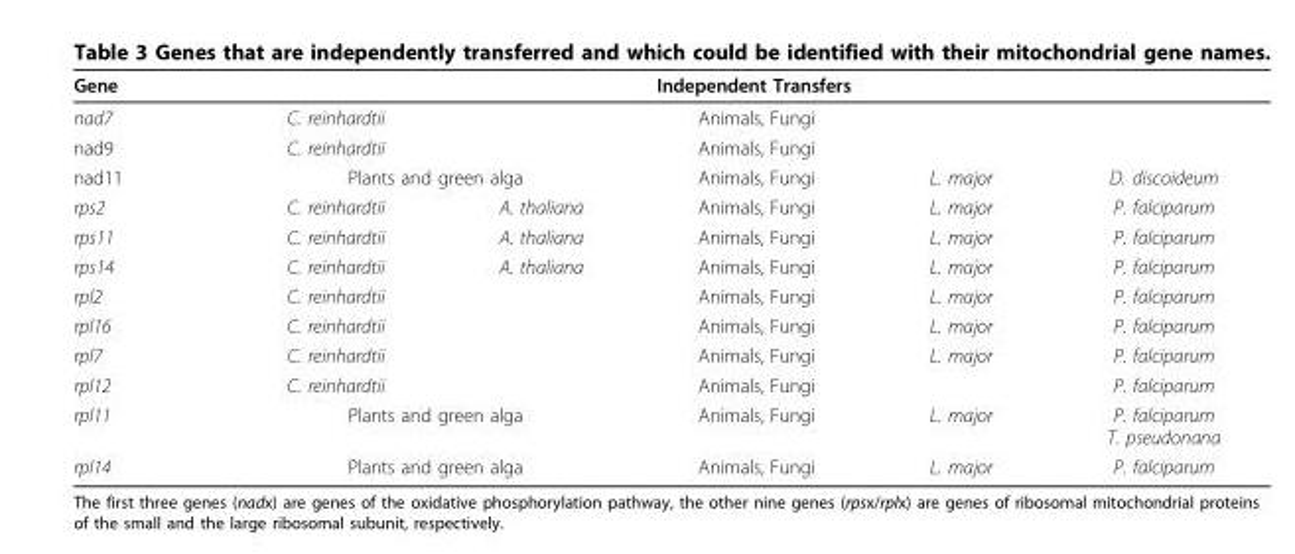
<table><thead><tr><td rowspan="2">Gene nad7</td><td colspan="5">Independent Transfers</td></tr><tr><td>C. reinhardtii</td><td></td><td>Animals, Fungi</td><td></td><td></td></tr></thead><tbody><tr><td>nad9</td><td>C. reinhardtii</td><td></td><td>Animals, Fungi</td><td></td><td></td></tr><tr><td>nad11</td><td colspan="2">Plants and green alga</td><td>Animals, Fungi</td><td>L. major</td><td>D. discoideum</td></tr><tr><td>rps2</td><td>C. reinhardtii</td><td>A. thaliana</td><td>Animals, Fungi</td><td>L. major</td><td>P. falciparum</td></tr><tr><td>rps11</td><td>C. reinhardtii</td><td>A. thaliana</td><td>Animals, Fungi</td><td>L. major</td><td>P. falciparum</td></tr><tr><td>rps14</td><td>C. reinhardtii</td><td>A. thaliana</td><td>Animals, Fungi</td><td>L. major</td><td>P. falciparum</td></tr><tr><td>rpl2</td><td>C. reinhardtii</td><td></td><td>Animals, Fungi</td><td>L. major</td><td>P. falciparum</td></tr><tr><td>rpl16</td><td>C. reinhardtii</td><td></td><td>Animals, Fungi</td><td>L. major</td><td>P. falciparum</td></tr><tr><td>rpl7</td><td>C. reinhardtii</td><td></td><td>Animals, Fungi</td><td>L. major</td><td>P. falciparum</td></tr><tr><td>rpl12</td><td>C. reinhardtii</td><td></td><td>Animals, Fungi</td><td></td><td>P. falciparum</td></tr><tr><td>rpl11</td><td colspan="2">Plants and green alga</td><td>Animals, Fungi</td><td>L. major</td><td>P. falciparum T. pseudonana</td></tr><tr><td>rpl14</td><td colspan="2">Plants and green alga</td><td>Animals, Fungi</td><td>L. major</td><td>P. falciparum</td></tr></tbody></table>